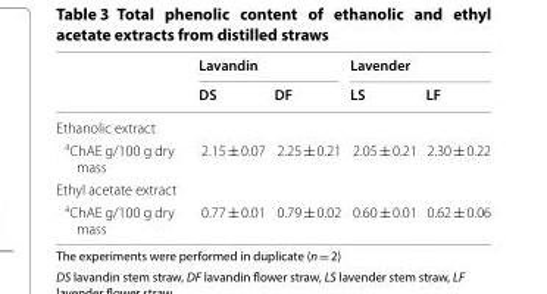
<table><thead><tr><td rowspan="2"></td><td colspan="2">Lavandin</td><td colspan="2">Lavender</td></tr><tr><td>DS</td><td>DF</td><td>LS</td><td>LF</td></tr></thead><tbody><tr><td colspan="5">Ethanolic extract</td></tr><tr><td><sup>a</sup>ChAE g/100 g dry mass</td><td>2.15 ± 0.07</td><td>2.25 ± 0.21</td><td>2.05 ± 0.21</td><td>2.30 ± 0.22</td></tr><tr><td colspan="5">Ethyl acetate extract</td></tr><tr><td><sup>a</sup>ChAE g/100 g dry mass</td><td>0.77 ± 0.01</td><td>0.79 ± 0.02</td><td>0.60 ± 0.01</td><td>0.62 ± 0.06</td></tr></tbody></table>